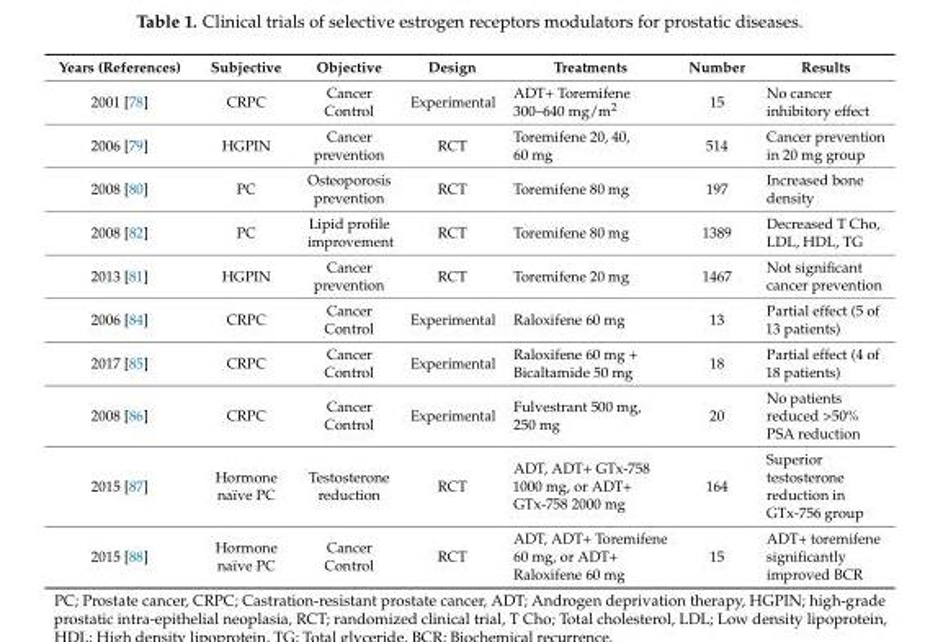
<table><thead><tr><td>Years (References)</td><td>Subjective</td><td>Objective</td><td>Design</td><td>Treatments</td><td>Number</td><td>Results</td></tr></thead><tbody><tr><td>2001 [78]</td><td>CRPC</td><td>Cancer Control</td><td>Experimental</td><td>ADT+ Toremifene 300–640 mg/m<sup>2</sup></td><td>15</td><td>No cancer inhibitory effect</td></tr><tr><td>2006 [79]</td><td>HGPIN</td><td>Cancer prevention</td><td>RCT</td><td>Toremifene 20, 40, 60 mg</td><td>514</td><td>Cancer prevention in 20 mg group</td></tr><tr><td>2008 [80]</td><td>PC</td><td>Osteoporosis prevention</td><td>RCT</td><td>Toremifene 80 mg</td><td>197</td><td>Increased bone density</td></tr><tr><td>2008 [82]</td><td>PC</td><td>Lipid profile improvement</td><td>RCT</td><td>Toremifene 80 mg</td><td>1389</td><td>Decreased T Cho, LDL, HDL, TG</td></tr><tr><td>2013 [81]</td><td>HGPIN</td><td>Cancer prevention</td><td>RCT</td><td>Toremifene 20 mg</td><td>1467</td><td>Not significant cancer prevention</td></tr><tr><td>2006 [84]</td><td>CRPC</td><td>Cancer Control</td><td>Experimental</td><td>Raloxifene 60 mg</td><td>13</td><td>Partial effect (5 of 13 patients)</td></tr><tr><td>2017 [85]</td><td>CRPC</td><td>Cancer Control</td><td>Experimental</td><td>Raloxifene 60 mg + Bicaltamide 50 mg</td><td>18</td><td>Partial effect (4 of 18 patients)</td></tr><tr><td>2008 [86]</td><td>CRPC</td><td>Cancer Control</td><td>Experimental</td><td>Fulvestrant 500 mg, 250 mg</td><td>20</td><td>No patients reduced &gt;50% PSA reduction</td></tr><tr><td>2015 [87]</td><td>Hormone naïve PC</td><td>Testosterone reduction</td><td>RCT</td><td>ADT, ADT+ GTx-758 1000 mg, or ADT+ GTx-758 2000 mg</td><td>164</td><td>Superior testosterone reduction in GTx-756 group</td></tr><tr><td>2015 [88]</td><td>Hormone naïve PC</td><td>Cancer Control</td><td>RCT</td><td>ADT, ADT+ Toremifene 60 mg, or ADT+ Raloxifene 60 mg</td><td>15</td><td>ADT+ toremifene significantly improved BCR</td></tr></tbody></table>